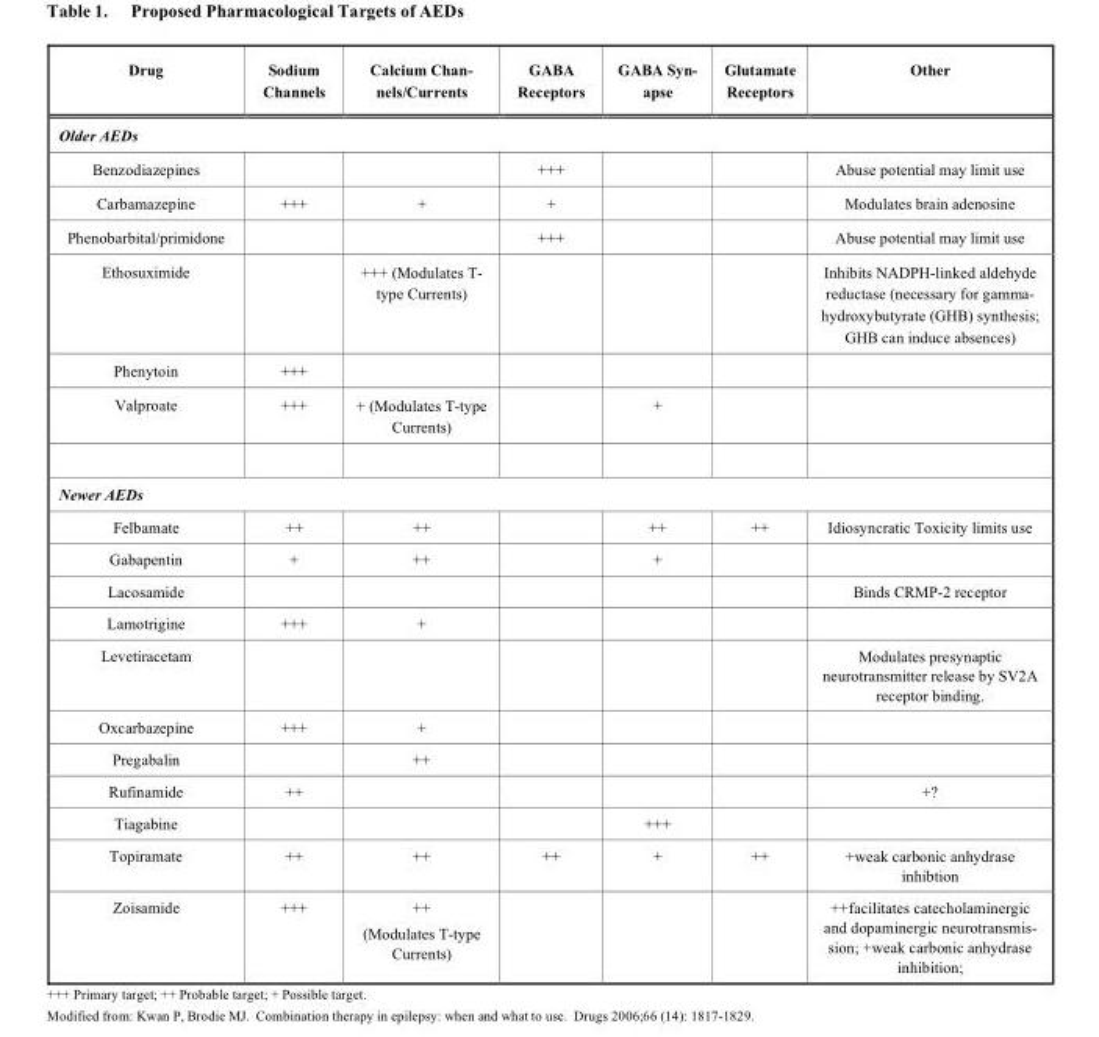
<table><thead><tr><td>Drug</td><td>Sodium Channels</td><td>Calcium Chan- nels/Currents</td><td>GABA Receptors</td><td>GABA Syn- apse</td><td>Glutamate Receptors</td><td>Other</td></tr></thead><tbody><tr><td colspan="7">Older AEDs</td></tr><tr><td>Benzodiazepines</td><td></td><td></td><td>+++</td><td></td><td></td><td>Abuse potential may limit use</td></tr><tr><td>Carbamazepine</td><td>+++</td><td>+</td><td>+</td><td></td><td></td><td>Modulates brain adenosine</td></tr><tr><td>Phenobarbital/primidone</td><td></td><td></td><td>+++</td><td></td><td></td><td>Abuse potential may limit use</td></tr><tr><td>Ethosuximide</td><td></td><td>+++ (Modulates T- type Currents)</td><td></td><td></td><td></td><td>Inhibits NADPH-linked aldehyde reductase (necessary for gamma- hydroxybutyrate (GHB) synthesis; GHB can induce absences)</td></tr><tr><td>Phenytoin</td><td>+++</td><td></td><td></td><td></td><td></td><td></td></tr><tr><td>Valproate</td><td>+++</td><td>+ (Modulates T-type Currents)</td><td></td><td>+</td><td></td><td></td></tr><tr><td colspan="7">Newer AEDs</td></tr><tr><td>Felbamate</td><td>++</td><td>++</td><td></td><td>++</td><td>++</td><td>Idiosyncratic Toxicity limits use</td></tr><tr><td>Gabapentin</td><td>+</td><td>++</td><td></td><td>+</td><td></td><td></td></tr><tr><td>Lacosamide</td><td></td><td></td><td></td><td></td><td></td><td>Binds CRMP-2 receptor</td></tr><tr><td>Lamotrigine</td><td>+++</td><td>+</td><td></td><td></td><td></td><td></td></tr><tr><td>Levetiracetam</td><td></td><td></td><td></td><td></td><td></td><td>Modulates presynaptic neurotransmitter release by SV2A receptor binding.</td></tr><tr><td>Oxcarbazepine</td><td>+++</td><td>+</td><td></td><td></td><td></td><td></td></tr><tr><td>Pregabalin</td><td></td><td>++</td><td></td><td></td><td></td><td></td></tr><tr><td>Rufinamide</td><td>++</td><td></td><td></td><td></td><td></td><td>+?</td></tr><tr><td>Tiagabine</td><td></td><td></td><td></td><td>+++</td><td></td><td></td></tr><tr><td>Topiramate</td><td>++</td><td>++</td><td>++</td><td>+</td><td>++</td><td>+weak carbonic anhydrase inhibtion</td></tr><tr><td>Zoisamide</td><td>+++</td><td>++ (Modulates T-type Currents)</td><td></td><td></td><td></td><td>++facilitates catecholaminergic and dopaminergic neurotransmis- sion; +weak carbonic anhydrase inhibition;</td></tr></tbody></table>